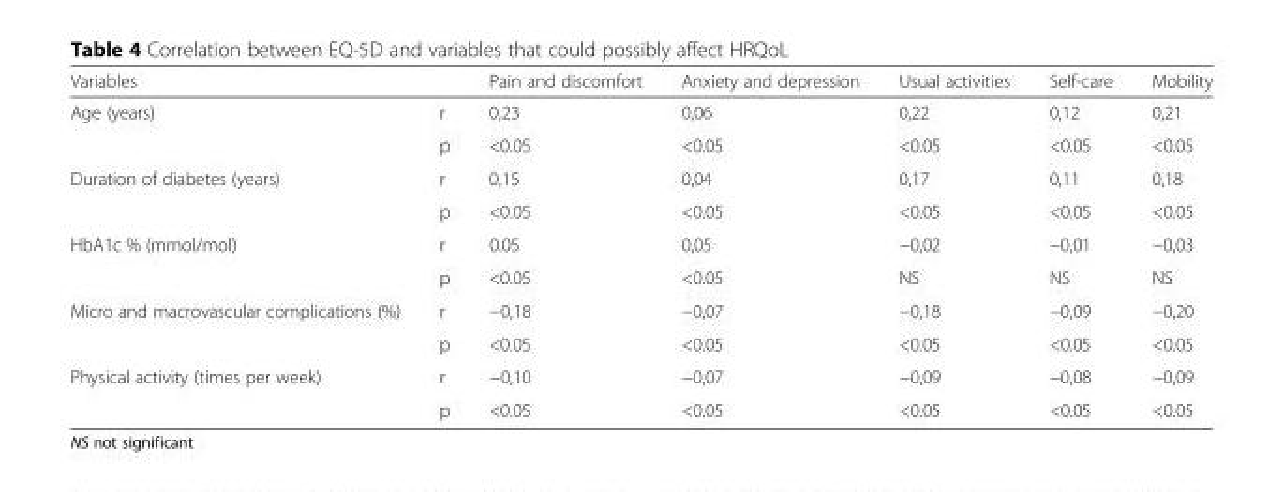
<table><thead><tr><td>Variables</td><td></td><td>Pain and discomfort</td><td>Anxiety and depression</td><td>Usual activities</td><td>Self-care</td><td>Mobility</td></tr></thead><tbody><tr><td rowspan="2">Age (years)</td><td>r</td><td>0,23</td><td>0,06</td><td>0,22</td><td>0,12</td><td>0,21</td></tr><tr><td>p</td><td>&lt;0.05</td><td>&lt;0.05</td><td>&lt;0.05</td><td>&lt;0.05</td><td>&lt;0.05</td></tr><tr><td rowspan="2">Duration of diabetes (years)</td><td>r</td><td>0,15</td><td>0,04</td><td>0,17</td><td>0,11</td><td>0,18</td></tr><tr><td>p</td><td>&lt;0.05</td><td>&lt;0.05</td><td>&lt;0.05</td><td>&lt;0.05</td><td>&lt;0.05</td></tr><tr><td rowspan="2">HbA1c % (mmol/mol)</td><td>r</td><td>0.05</td><td>0,05</td><td>−0,02</td><td>−0,01</td><td>−0,03</td></tr><tr><td>p</td><td>&lt;0.05</td><td>&lt;0.05</td><td>NS</td><td>NS</td><td>NS</td></tr><tr><td rowspan="2">Micro and macrovascular complications (%)</td><td>r</td><td>−0,18</td><td>−0,07</td><td>−0,18</td><td>−0,09</td><td>−0,20</td></tr><tr><td>p</td><td>&lt;0.05</td><td>&lt;0.05</td><td>&lt;0.05</td><td>&lt;0.05</td><td>&lt;0.05</td></tr><tr><td rowspan="2">Physical activity (times per week)</td><td>r</td><td>−0,10</td><td>−0,07</td><td>−0,09</td><td>−0,08</td><td>−0,09</td></tr><tr><td>p</td><td>&lt;0.05</td><td>&lt;0.05</td><td>&lt;0.05</td><td>&lt;0.05</td><td>&lt;0.05</td></tr></tbody></table>